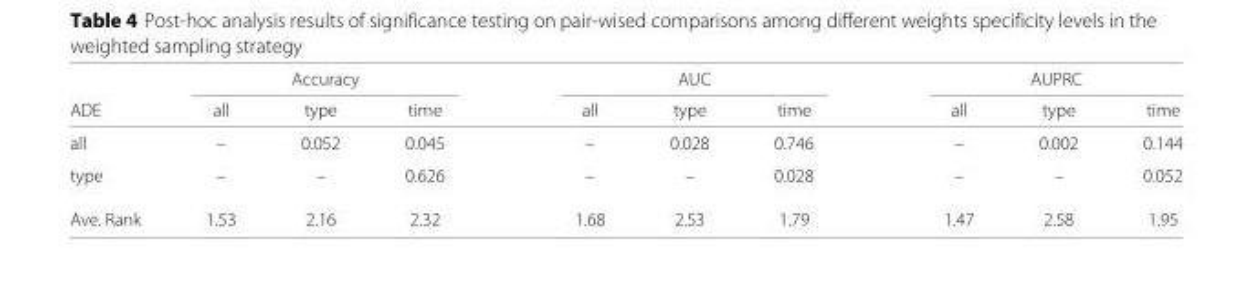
<table><thead><tr><td rowspan="2">ADE</td><td colspan="3">Accuracy</td><td colspan="3">AUC</td><td colspan="3">AUPRC</td></tr><tr><td>all</td><td>type</td><td>time</td><td>all</td><td>type</td><td>time</td><td>all</td><td>type</td><td>time</td></tr></thead><tbody><tr><td>all</td><td>–</td><td>0.052</td><td>0.045</td><td>–</td><td>0.028</td><td>0.746</td><td>–</td><td>0.002</td><td>0.144</td></tr><tr><td>type</td><td>–</td><td>–</td><td>0.626</td><td>–</td><td>–</td><td>0.028</td><td>–</td><td>–</td><td>0.052</td></tr><tr><td>Ave. Rank</td><td>1.53</td><td>2.16</td><td>2.32</td><td>1.68</td><td>2.53</td><td>1.79</td><td>1.47</td><td>2.58</td><td>1.95</td></tr></tbody></table>